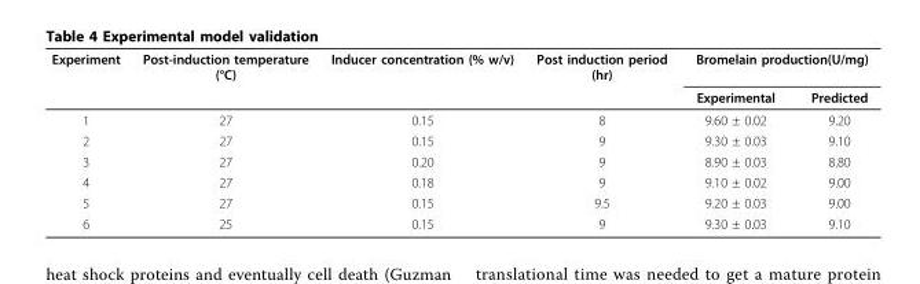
<table><thead><tr><td rowspan="2">Experiment</td><td rowspan="2">Post-induction temperature (°C)</td><td rowspan="2">Inducer concentration (% w/v)</td><td rowspan="2">Post induction period (hr)</td><td colspan="2">Bromelain production(U/mg)</td></tr><tr><td>Experimental</td><td>Predicted</td></tr></thead><tbody><tr><td>1</td><td>27</td><td>0.15</td><td>8</td><td>9.60 ± 0.02</td><td>9.20</td></tr><tr><td>2</td><td>27</td><td>0.15</td><td>9</td><td>9.30 ± 0.03</td><td>9.10</td></tr><tr><td>3</td><td>27</td><td>0.20</td><td>9</td><td>8.90 ± 0.03</td><td>8.80</td></tr><tr><td>4</td><td>27</td><td>0.18</td><td>9</td><td>9.10 ± 0.02</td><td>9.00</td></tr><tr><td>5</td><td>27</td><td>0.15</td><td>9.5</td><td>9.20 ± 0.03</td><td>9.00</td></tr><tr><td>6</td><td>25</td><td>0.15</td><td>9</td><td>9.30 ± 0.03</td><td>9.10</td></tr></tbody></table>